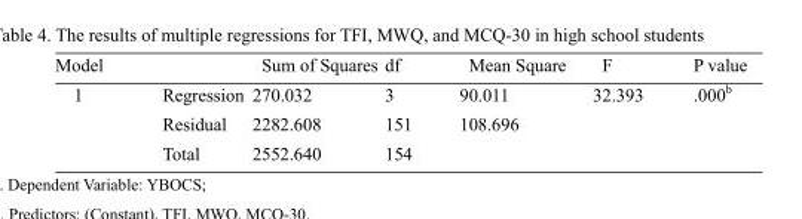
<table><thead><tr><td>Model</td><td></td><td>Sum of Squares</td><td>df</td><td>Mean Square</td><td>F</td><td>P value</td></tr></thead><tbody><tr><td rowspan="3">1</td><td>Regression</td><td>270.032</td><td>3</td><td>90.011</td><td>32.393</td><td>.000<sup>b</sup></td></tr><tr><td>Residual</td><td>2282.608</td><td>151</td><td>108.696</td><td></td><td></td></tr><tr><td>Total</td><td>2552.640</td><td>154</td><td></td><td></td><td></td></tr></tbody></table>